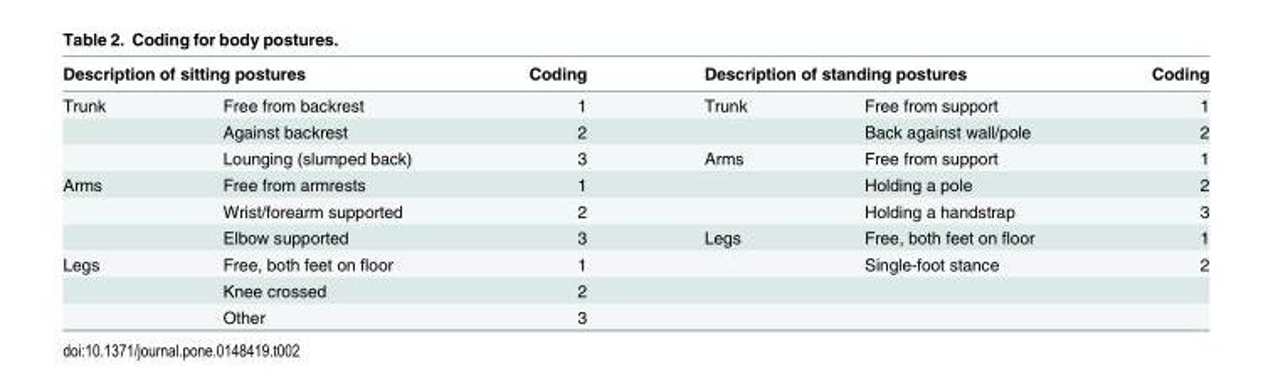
<table><thead><tr><td colspan="2">Description of sitting postures</td><td rowspan="2">Coding 1</td><td colspan="2">Description of standing postures</td><td rowspan="2">Coding 1</td></tr><tr><td>Trunk</td><td>Free from backrest</td><td>Trunk</td><td>Free from support</td></tr></thead><tbody><tr><td></td><td>Against backrest</td><td>2</td><td></td><td>Back against wall/pole</td><td>2</td></tr><tr><td></td><td>Lounging (slumped back)</td><td>3</td><td>Arms</td><td>Free from support</td><td>1</td></tr><tr><td rowspan="3">Arms</td><td>Free from armrests</td><td>1</td><td></td><td>Holding a pole</td><td>2</td></tr><tr><td>Wrist/forearm supported</td><td>2</td><td></td><td>Holding a handstrap</td><td>3</td></tr><tr><td>Elbow supported</td><td>3</td><td>Legs</td><td>Free, both feet on floor</td><td>1</td></tr><tr><td rowspan="3">Legs</td><td>Free, both feet on floor</td><td>1</td><td></td><td>Single-foot stance</td><td>2</td></tr><tr><td>Knee crossed</td><td>2</td><td></td><td></td><td></td></tr><tr><td>Other</td><td>3</td><td></td><td></td><td></td></tr></tbody></table>